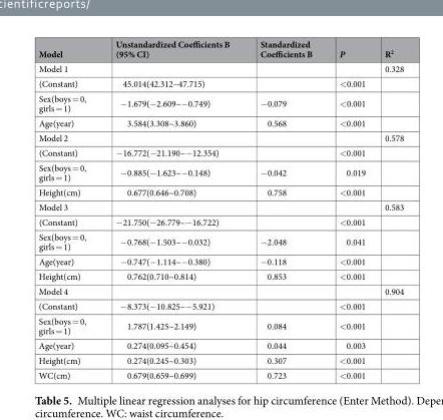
<table><thead><tr><td>Model</td><td>Unstandardized Coefficients B (95% CI)</td><td>Standardized Coefficients B</td><td>P</td><td>R<sup>2</sup></td></tr></thead><tbody><tr><td>Model 1</td><td></td><td></td><td></td><td>0.328</td></tr><tr><td>(Constant)</td><td>45.014(42.312~47.715)</td><td></td><td>&lt;0.001</td><td></td></tr><tr><td>Sex(boys = 0, girls = 1)</td><td>−1.679(−2.609~−0.749)</td><td>−0.079</td><td>&lt;0.001</td><td></td></tr><tr><td>Age(year)</td><td>3.584(3.308~3.860)</td><td>0.568</td><td>&lt;0.001</td><td></td></tr><tr><td>Model 2</td><td></td><td></td><td></td><td>0.578</td></tr><tr><td>(Constant)</td><td>−16.772(−21.190~−12.354)</td><td></td><td>&lt;0.001</td><td></td></tr><tr><td>Sex(boys = 0, girls = 1)</td><td>−0.885(−1.623~−0.148)</td><td>−0.042</td><td>0.019</td><td></td></tr><tr><td>Height(cm)</td><td>0.677(0.646~0.708)</td><td>0.758</td><td>&lt;0.001</td><td></td></tr><tr><td>Model 3</td><td></td><td></td><td></td><td>0.583</td></tr><tr><td>(Constant)</td><td>−21.750(−26.779~−16.722)</td><td></td><td>&lt;0.001</td><td></td></tr><tr><td>Sex(boys = 0, girls = 1)</td><td>−0.768(−1.503~−0.032)</td><td>−2.048</td><td>0.041</td><td></td></tr><tr><td>Age(year)</td><td>−0.747(−1.114~−0.380)</td><td>−0.118</td><td>&lt;0.001</td><td></td></tr><tr><td>Height(cm)</td><td>0.762(0.710~0.814)</td><td>0.853</td><td>&lt;0.001</td><td></td></tr><tr><td>Model 4</td><td></td><td></td><td></td><td>0.904</td></tr><tr><td>(Constant)</td><td>−8.373(−10.825~−5.921)</td><td></td><td>&lt;0.001</td><td></td></tr><tr><td>Sex(boys = 0, girls = 1)</td><td>1.787(1.425~2.149)</td><td>0.084</td><td>&lt;0.001</td><td></td></tr><tr><td>Age(year)</td><td>0.274(0.095~0.454)</td><td>0.044</td><td>0.003</td><td></td></tr><tr><td>Height(cm)</td><td>0.274(0.245~0.303)</td><td>0.307</td><td>&lt;0.001</td><td></td></tr><tr><td>WC(cm)</td><td>0.679(0.659~0.699)</td><td>0.723</td><td>&lt;0.001</td><td></td></tr></tbody></table>